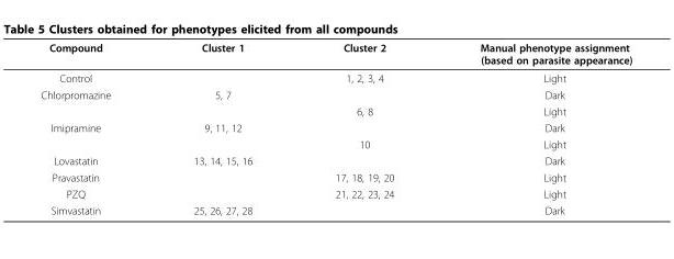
<table><thead><tr><td>Compound</td><td>Cluster 1</td><td>Cluster 2</td><td>Manual phenotype assignment (based on parasite appearance)</td></tr></thead><tbody><tr><td>Control</td><td></td><td>1, 2, 3, 4</td><td>Light</td></tr><tr><td rowspan="2">Chlorpromazine</td><td>5, 7</td><td></td><td>Dark</td></tr><tr><td></td><td>6, 8</td><td>Light</td></tr><tr><td rowspan="2">Imipramine</td><td>9, 11, 12</td><td></td><td>Dark</td></tr><tr><td></td><td>10</td><td>Light</td></tr><tr><td>Lovastatin</td><td>13, 14, 15, 16</td><td></td><td>Dark</td></tr><tr><td>Pravastatin</td><td></td><td>17, 18, 19, 20</td><td>Light</td></tr><tr><td>PZQ</td><td></td><td>21, 22, 23, 24</td><td>Light</td></tr><tr><td>Simvastatin</td><td>25, 26, 27, 28</td><td></td><td>Dark</td></tr></tbody></table>